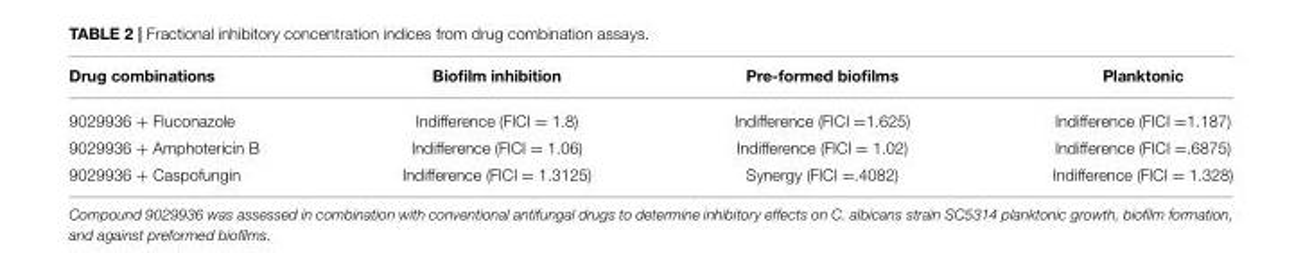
<table><thead><tr><td>Drug combinations</td><td>Biofilm inhibition</td><td>Pre-formed biofilms</td><td>Planktonic</td></tr></thead><tbody><tr><td>9029936 + Fluconazole</td><td>Indifference (FICI = 1.8)</td><td>Indifference (FICI =1.625)</td><td>Indifference (FICI =1.187)</td></tr><tr><td>9029936 + Amphotericin B</td><td>Indifference (FICI = 1.06)</td><td>Indifference (FICI = 1.02)</td><td>Indifference (FICI =.6875)</td></tr><tr><td>9029936 + Caspofungin</td><td>Indifference (FICI = 1.3125)</td><td>Synergy (FICI =.4082)</td><td>Indifference (FICI = 1.328)</td></tr></tbody></table>